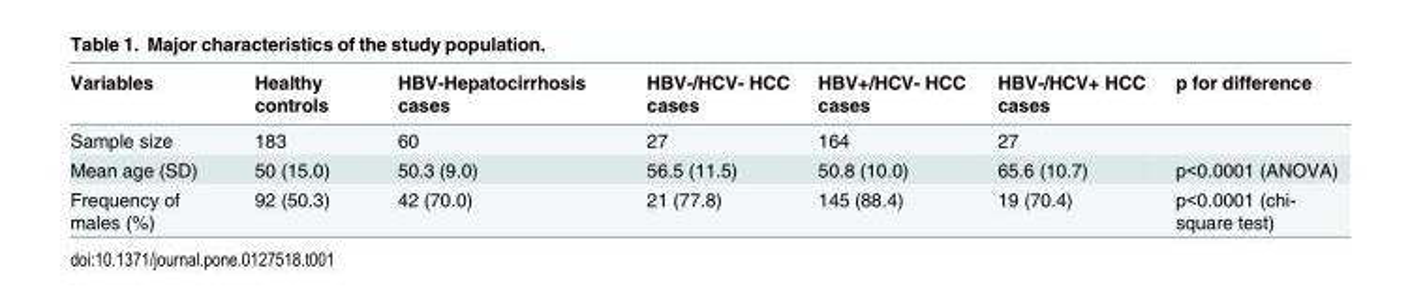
<table><thead><tr><td>Variables</td><td>Healthy controls</td><td>HBV-Hepatocirrhosis cases</td><td>HBV-/HCV- HCC cases</td><td>HBV+/HCV- HCC cases</td><td>HBV-/HCV+ HCC cases</td><td>p for difference</td></tr></thead><tbody><tr><td>Sample size</td><td>183</td><td>60</td><td>27</td><td>164</td><td>27</td><td></td></tr><tr><td>Mean age (SD)</td><td>50 (15.0)</td><td>50.3 (9.0)</td><td>56.5 (11.5)</td><td>50.8 (10.0)</td><td>65.6 (10.7)</td><td>p&lt;0.0001 (ANOVA)</td></tr><tr><td>Frequency of males (%)</td><td>92 (50.3)</td><td>42 (70.0)</td><td>21 (77.8)</td><td>145 (88.4)</td><td>19 (70.4)</td><td>p&lt;0.0001 (chi- square test)</td></tr></tbody></table>